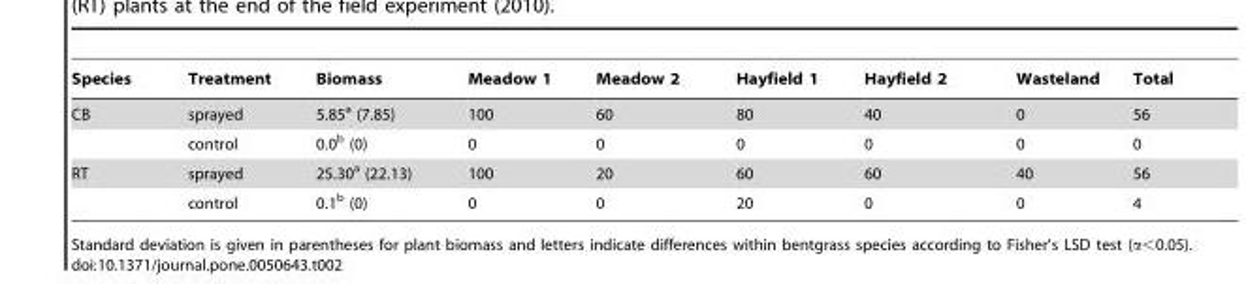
<table><thead><tr><td>Species</td><td>Treatment</td><td>Biomass</td><td>Meadow 1</td><td>Meadow 2</td><td>Hayfield 1</td><td>Hayfield 2</td><td>Wasteland</td><td>Total</td></tr></thead><tbody><tr><td rowspan="2">CB</td><td>sprayed</td><td>5.85<sup>a</sup> (7.85)</td><td>100</td><td>60</td><td>80</td><td>40</td><td>0</td><td>56</td></tr><tr><td>control</td><td>0.0<sup>b</sup> (0)</td><td>0</td><td>0</td><td>0</td><td>0</td><td>0</td><td>0</td></tr><tr><td rowspan="2">RT</td><td>sprayed</td><td>25.30<sup>a</sup> (22.13)</td><td>100</td><td>20</td><td>60</td><td>60</td><td>40</td><td>56</td></tr><tr><td>control</td><td>0.1<sup>b</sup> (0)</td><td>0</td><td>0</td><td>20</td><td>0</td><td>0</td><td>4</td></tr></tbody></table>